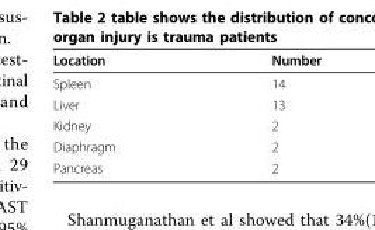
<table><thead><tr><td>Location</td><td>Number</td></tr></thead><tbody><tr><td>Spleen</td><td>14</td></tr><tr><td>Liver</td><td>13</td></tr><tr><td>Kidney</td><td>2</td></tr><tr><td>Diaphragm</td><td>2</td></tr><tr><td>Pancreas</td><td>2</td></tr></tbody></table>